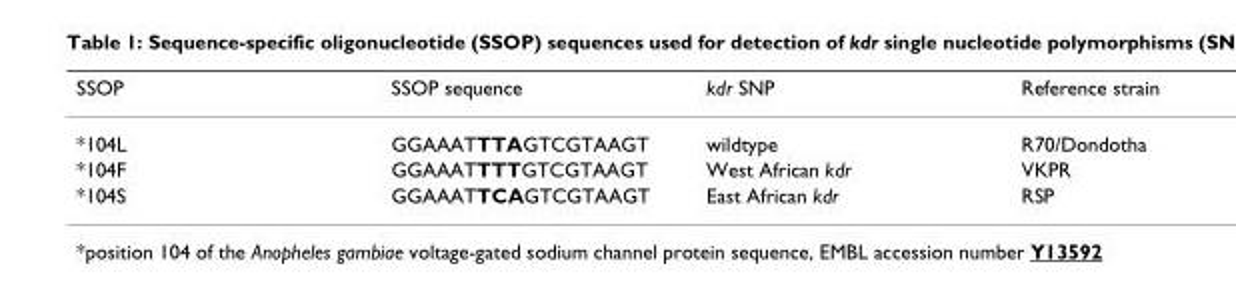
<table><thead><tr><td>SSOP</td><td>SSOP sequence</td><td>kdr SNP</td><td>Reference strain</td></tr></thead><tbody><tr><td>*104L</td><td>GGAAATTTAGTCGTAAGT</td><td>wildtype</td><td>R70/Dondotha</td></tr><tr><td>*104F</td><td>GGAAATTTTGTCGTAAGT</td><td>West African kdr</td><td>VKPR</td></tr><tr><td>*104S</td><td>GGAAATTCAGTCGTAAGT</td><td>East African kdr</td><td>RSP</td></tr></tbody></table>